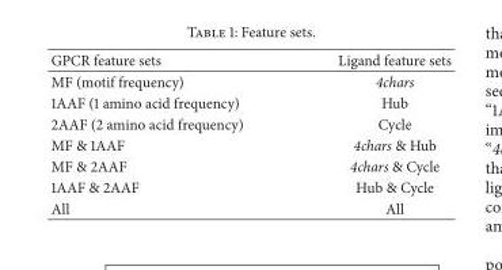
<table><thead><tr><td>GPCR feature sets</td><td>Ligand feature sets</td></tr></thead><tbody><tr><td>MF (motif frequency)</td><td>4chars</td></tr><tr><td>1AAF (1 amino acid frequency)</td><td>Hub</td></tr><tr><td>2AAF (2 amino acid frequency)</td><td>Cycle</td></tr><tr><td>MF &amp; 1AAF</td><td>4chars &amp; Hub</td></tr><tr><td>MF &amp; 2AAF</td><td>4chars &amp; Cycle</td></tr><tr><td>1AAF &amp; 2AAF</td><td>Hub &amp; Cycle</td></tr><tr><td>All</td><td>All</td></tr></tbody></table>